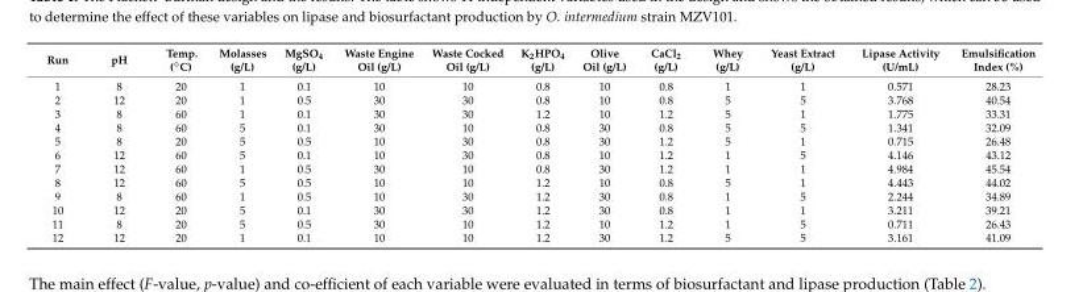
<table><thead><tr><td>Run</td><td>pH</td><td>Temp. (◦C)</td><td>Molasses (g/L)</td><td>MgSO<sub>4</sub> (g/L)</td><td>Waste Engine Oil (g/L)</td><td>Waste Cocked Oil (g/L)</td><td>K<sub>2</sub>HPO<sub>4</sub> (g/L)</td><td>Olive Oil (g/L)</td><td>CaCl<sub>2</sub> (g/L)</td><td>Whey (g/L)</td><td>Yeast Extract (g/L)</td><td>Lipase Activity (U/mL)</td><td>Emulsification Index (%)</td></tr></thead><tbody><tr><td>1</td><td>8</td><td>20</td><td>1</td><td>0.1</td><td>10</td><td>10</td><td>0.8</td><td>10</td><td>0.8</td><td>1</td><td>1</td><td>0.571</td><td>28.23</td></tr><tr><td>2</td><td>12</td><td>20</td><td>1</td><td>0.5</td><td>30</td><td>30</td><td>0.8</td><td>10</td><td>0.8</td><td>5</td><td>5</td><td>3.768</td><td>40.54</td></tr><tr><td>3</td><td>8</td><td>60</td><td>1</td><td>0.1</td><td>30</td><td>30</td><td>1.2</td><td>10</td><td>1.2</td><td>5</td><td>1</td><td>1.775</td><td>33.31</td></tr><tr><td>4</td><td>8</td><td>60</td><td>5</td><td>0.1</td><td>30</td><td>10</td><td>0.8</td><td>30</td><td>0.8</td><td>5</td><td>5</td><td>1.341</td><td>32.09</td></tr><tr><td>5</td><td>8</td><td>20</td><td>5</td><td>0.5</td><td>10</td><td>30</td><td>0.8</td><td>30</td><td>1.2</td><td>5</td><td>1</td><td>0.715</td><td>26.48</td></tr><tr><td>6</td><td>12</td><td>60</td><td>5</td><td>0.1</td><td>10</td><td>30</td><td>0.8</td><td>10</td><td>1.2</td><td>1</td><td>5</td><td>4.146</td><td>43.12</td></tr><tr><td>7</td><td>12</td><td>60</td><td>1</td><td>0.5</td><td>30</td><td>10</td><td>0.8</td><td>30</td><td>1.2</td><td>1</td><td>1</td><td>4.984</td><td>45.54</td></tr><tr><td>8</td><td>12</td><td>60</td><td>5</td><td>0.5</td><td>10</td><td>10</td><td>1.2</td><td>10</td><td>0.8</td><td>5</td><td>1</td><td>4.443</td><td>44.02</td></tr><tr><td>9</td><td>8</td><td>60</td><td>1</td><td>0.5</td><td>10</td><td>30</td><td>1.2</td><td>30</td><td>0.8</td><td>1</td><td>5</td><td>2.244</td><td>34.89</td></tr><tr><td>10</td><td>12</td><td>20</td><td>5</td><td>0.1</td><td>30</td><td>30</td><td>1.2</td><td>30</td><td>0.8</td><td>1</td><td>1</td><td>3.211</td><td>39.21</td></tr><tr><td>11</td><td>8</td><td>20</td><td>5</td><td>0.5</td><td>30</td><td>10</td><td>1.2</td><td>10</td><td>1.2</td><td>1</td><td>5</td><td>0.711</td><td>26.43</td></tr><tr><td>12</td><td>12</td><td>20</td><td>1</td><td>0.1</td><td>10</td><td>10</td><td>1.2</td><td>30</td><td>1.2</td><td>5</td><td>5</td><td>3.161</td><td>41.09</td></tr></tbody></table>